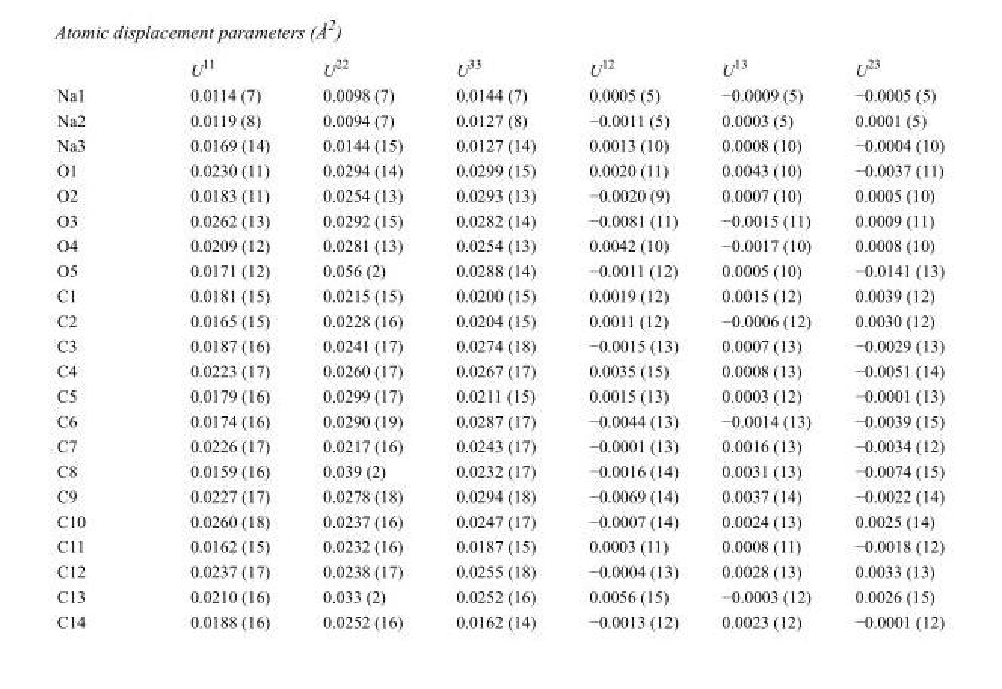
<table><thead><tr><td></td><td>U<sup>11</sup></td><td>U<sup>22</sup></td><td>U<sup>33</sup></td><td>U<sup>12</sup></td><td>U<sup>13</sup></td><td>U<sup>23</sup></td></tr></thead><tbody><tr><td>Na1</td><td>0.0114 (7)</td><td>0.0098 (7)</td><td>0.0144 (7)</td><td>0.0005 (5)</td><td>−0.0009 (5)</td><td>−0.0005 (5)</td></tr><tr><td>Na2</td><td>0.0119 (8)</td><td>0.0094 (7)</td><td>0.0127 (8)</td><td>−0.0011 (5)</td><td>0.0003 (5)</td><td>0.0001 (5)</td></tr><tr><td>Na3</td><td>0.0169 (14)</td><td>0.0144 (15)</td><td>0.0127 (14)</td><td>0.0013 (10)</td><td>0.0008 (10)</td><td>−0.0004 (10)</td></tr><tr><td>O1</td><td>0.0230 (11)</td><td>0.0294 (14)</td><td>0.0299 (15)</td><td>0.0020 (11)</td><td>0.0043 (10)</td><td>−0.0037 (11)</td></tr><tr><td>O2</td><td>0.0183 (11)</td><td>0.0254 (13)</td><td>0.0293 (13)</td><td>−0.0020 (9)</td><td>0.0007 (10)</td><td>0.0005 (10)</td></tr><tr><td>O3</td><td>0.0262 (13)</td><td>0.0292 (15)</td><td>0.0282 (14)</td><td>−0.0081 (11)</td><td>−0.0015 (11)</td><td>0.0009 (11)</td></tr><tr><td>O4</td><td>0.0209 (12)</td><td>0.0281 (13)</td><td>0.0254 (13)</td><td>0.0042 (10)</td><td>−0.0017 (10)</td><td>0.0008 (10)</td></tr><tr><td>O5</td><td>0.0171 (12)</td><td>0.056 (2)</td><td>0.0288 (14)</td><td>−0.0011 (12)</td><td>0.0005 (10)</td><td>−0.0141 (13)</td></tr><tr><td>C1</td><td>0.0181 (15)</td><td>0.0215 (15)</td><td>0.0200 (15)</td><td>0.0019 (12)</td><td>0.0015 (12)</td><td>0.0039 (12)</td></tr><tr><td>C2</td><td>0.0165 (15)</td><td>0.0228 (16)</td><td>0.0204 (15)</td><td>0.0011 (12)</td><td>−0.0006 (12)</td><td>0.0030 (12)</td></tr><tr><td>C3</td><td>0.0187 (16)</td><td>0.0241 (17)</td><td>0.0274 (18)</td><td>−0.0015 (13)</td><td>0.0007 (13)</td><td>−0.0029 (13)</td></tr><tr><td>C4</td><td>0.0223 (17)</td><td>0.0260 (17)</td><td>0.0267 (17)</td><td>0.0035 (15)</td><td>0.0008 (13)</td><td>−0.0051 (14)</td></tr><tr><td>C5</td><td>0.0179 (16)</td><td>0.0299 (17)</td><td>0.0211 (15)</td><td>0.0015 (13)</td><td>0.0003 (12)</td><td>−0.0001 (13)</td></tr><tr><td>C6</td><td>0.0174 (16)</td><td>0.0290 (19)</td><td>0.0287 (17)</td><td>−0.0044 (13)</td><td>−0.0014 (13)</td><td>−0.0039 (15)</td></tr><tr><td>C7</td><td>0.0226 (17)</td><td>0.0217 (16)</td><td>0.0243 (17)</td><td>−0.0001 (13)</td><td>0.0016 (13)</td><td>−0.0034 (12)</td></tr><tr><td>C8</td><td>0.0159 (16)</td><td>0.039 (2)</td><td>0.0232 (17)</td><td>−0.0016 (14)</td><td>0.0031 (13)</td><td>−0.0074 (15)</td></tr><tr><td>C9</td><td>0.0227 (17)</td><td>0.0278 (18)</td><td>0.0294 (18)</td><td>−0.0069 (14)</td><td>0.0037 (14)</td><td>−0.0022 (14)</td></tr><tr><td>C10</td><td>0.0260 (18)</td><td>0.0237 (16)</td><td>0.0247 (17)</td><td>−0.0007 (14)</td><td>0.0024 (13)</td><td>0.0025 (14)</td></tr><tr><td>C11</td><td>0.0162 (15)</td><td>0.0232 (16)</td><td>0.0187 (15)</td><td>0.0003 (11)</td><td>0.0008 (11)</td><td>−0.0018 (12)</td></tr><tr><td>C12</td><td>0.0237 (17)</td><td>0.0238 (17)</td><td>0.0255 (18)</td><td>−0.0004 (13)</td><td>0.0028 (13)</td><td>0.0033 (13)</td></tr><tr><td>C13</td><td>0.0210 (16)</td><td>0.033 (2)</td><td>0.0252 (16)</td><td>0.0056 (15)</td><td>−0.0003 (12)</td><td>0.0026 (15)</td></tr><tr><td>C14</td><td>0.0188 (16)</td><td>0.0252 (16)</td><td>0.0162 (14)</td><td>−0.0013 (12)</td><td>0.0023 (12)</td><td>−0.0001 (12)</td></tr></tbody></table>